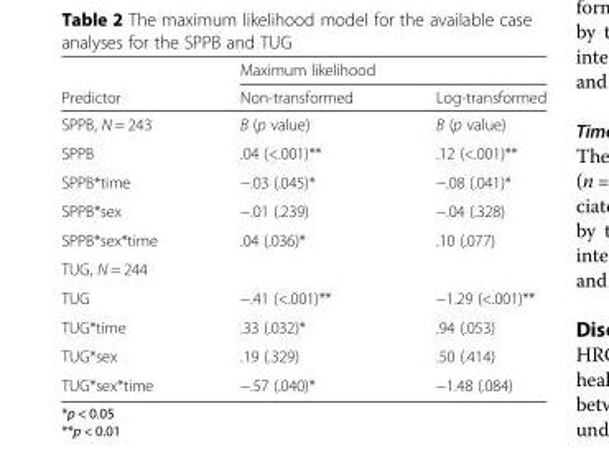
<table><thead><tr><td rowspan="2">Predictor</td><td colspan="2">Maximum likelihood</td></tr><tr><td>Non-transformed</td><td>Log-transformed</td></tr></thead><tbody><tr><td>SPPB, N = 243</td><td>B (p value)</td><td>B (p value)</td></tr><tr><td>SPPB</td><td>.04 (&lt;.001)**</td><td>.12 (&lt;.001)**</td></tr><tr><td>SPPB*time</td><td>−.03 (.045)*</td><td>−.08 (.041)*</td></tr><tr><td>SPPB*sex</td><td>−.01 (.239)</td><td>−.04 (.328)</td></tr><tr><td>SPPB*sex*time</td><td>.04 (.036)*</td><td>.10 (.077)</td></tr><tr><td colspan="3">TUG, N = 244</td></tr><tr><td>TUG</td><td>−.41 (&lt;.001)**</td><td>−1.29 (&lt;.001)**</td></tr><tr><td>TUG*time</td><td>.33 (.032)*</td><td>.94 (.053)</td></tr><tr><td>TUG*sex</td><td>.19 (.329)</td><td>.50 (.414)</td></tr><tr><td>TUG*sex*time</td><td>−.57 (.040)*</td><td>−1.48 (.084)</td></tr></tbody></table>